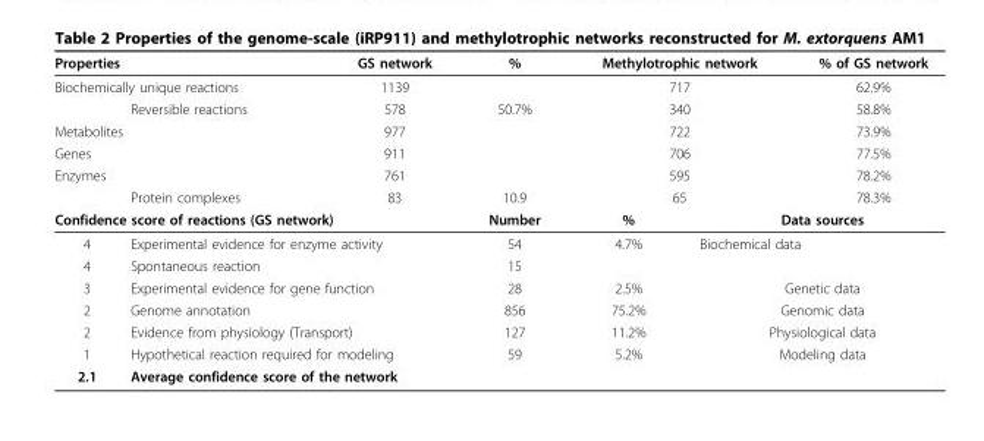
<table><thead><tr><td colspan="2">Properties</td><td>GS network</td><td>%</td><td colspan="2">Methylotrophic network</td><td>% of GS network</td></tr></thead><tbody><tr><td colspan="2">Biochemically unique reactions</td><td>1139</td><td></td><td colspan="2">717</td><td>62.9%</td></tr><tr><td></td><td>Reversible reactions</td><td>578</td><td>50.7%</td><td colspan="2">340</td><td>58.8%</td></tr><tr><td colspan="2">Metabolites</td><td>977</td><td></td><td colspan="2">722</td><td>73.9%</td></tr><tr><td colspan="2">Genes</td><td>911</td><td></td><td colspan="2">706</td><td>77.5%</td></tr><tr><td colspan="2">Enzymes</td><td>761</td><td></td><td colspan="2">595</td><td>78.2%</td></tr><tr><td></td><td>Protein complexes</td><td>83</td><td>10.9</td><td colspan="2">65</td><td>78.3%</td></tr><tr><td colspan="3">Confidence score of reactions (GS network)</td><td>Number</td><td>%</td><td colspan="2">Data sources</td></tr><tr><td>4</td><td colspan="2">Experimental evidence for enzyme activity</td><td>54</td><td>4.7%</td><td colspan="2">Biochemical data</td></tr><tr><td>4</td><td>Spontaneous reaction</td><td></td><td>15</td><td></td><td></td><td></td></tr><tr><td>3</td><td colspan="2">Experimental evidence for gene function</td><td>28</td><td>2.5%</td><td colspan="2">Genetic data</td></tr><tr><td>2</td><td>Genome annotation</td><td></td><td>856</td><td>75.2%</td><td colspan="2">Genomic data</td></tr><tr><td>2</td><td colspan="2">Evidence from physiology (Transport)</td><td>127</td><td>11.2%</td><td colspan="2">Physiological data</td></tr><tr><td>1</td><td colspan="2">Hypothetical reaction required for modeling</td><td>59</td><td>5.2%</td><td colspan="2">Modeling data</td></tr><tr><td>2.1</td><td colspan="4">Average confidence score of the network</td><td></td><td></td></tr></tbody></table>